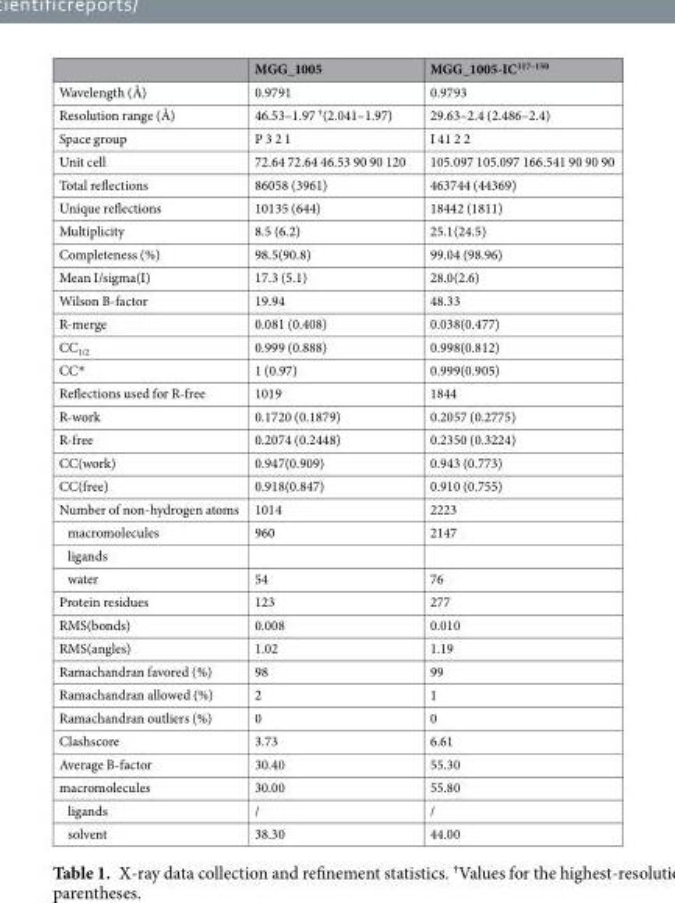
<table><thead><tr><td></td><td>MGG_1005</td><td>MGG_1005-IC<sup>117–150</sup></td></tr></thead><tbody><tr><td>Wavelength (Å)</td><td>0.9791</td><td>0.9793</td></tr><tr><td>Resolution range (Å)</td><td>46.53–1.97 <sup>†</sup>(2.041–1.97)</td><td>29.63–2.4 (2.486–2.4)</td></tr><tr><td>Space group</td><td>P 3 2 1</td><td>I 41 2 2</td></tr><tr><td>Unit cell</td><td>72.64 72.64 46.53 90 90 120</td><td>105.097 105.097 166.541 90 90 90</td></tr><tr><td>Total reflections</td><td>86058 (3961)</td><td>463744 (44369)</td></tr><tr><td>Unique reflections</td><td>10135 (644)</td><td>18442 (1811)</td></tr><tr><td>Multiplicity</td><td>8.5 (6.2)</td><td>25.1(24.5)</td></tr><tr><td>Completeness (%)</td><td>98.5(90.8)</td><td>99.04 (98.96)</td></tr><tr><td>Mean I/sigma(I)</td><td>17.3 (5.1)</td><td>28.0(2.6)</td></tr><tr><td>Wilson B-factor</td><td>19.94</td><td>48.33</td></tr><tr><td>R-merge</td><td>0.081 (0.408)</td><td>0.038(0.477)</td></tr><tr><td>CC<sub>1/2</sub></td><td>0.999 (0.888)</td><td>0.998(0.812)</td></tr><tr><td>CC*</td><td>1 (0.97)</td><td>0.999(0.905)</td></tr><tr><td>Reflections used for R-free</td><td>1019</td><td>1844</td></tr><tr><td>R-work</td><td>0.1720 (0.1879)</td><td>0.2057 (0.2775)</td></tr><tr><td>R-free</td><td>0.2074 (0.2448)</td><td>0.2350 (0.3224)</td></tr><tr><td>CC(work)</td><td>0.947(0.909)</td><td>0.943 (0.773)</td></tr><tr><td>CC(free)</td><td>0.918(0.847)</td><td>0.910 (0.755)</td></tr><tr><td>Number of non-hydrogen atoms</td><td>1014</td><td>2223</td></tr><tr><td>macromolecules</td><td>960</td><td>2147</td></tr><tr><td colspan="3">ligands</td></tr><tr><td>water</td><td>54</td><td>76</td></tr><tr><td>Protein residues</td><td>123</td><td>277</td></tr><tr><td>RMS(bonds)</td><td>0.008</td><td>0.010</td></tr><tr><td>RMS(angles)</td><td>1.02</td><td>1.19</td></tr><tr><td>Ramachandran favored (%)</td><td>98</td><td>99</td></tr><tr><td>Ramachandran allowed (%)</td><td>2</td><td>1</td></tr><tr><td>Ramachandran outliers (%)</td><td>0</td><td>0</td></tr><tr><td>Clashscore</td><td>3.73</td><td>6.61</td></tr><tr><td>Average B-factor</td><td>30.40</td><td>55.30</td></tr><tr><td>macromolecules</td><td>30.00</td><td>55.80</td></tr><tr><td>ligands</td><td>/</td><td>/</td></tr><tr><td>solvent</td><td>38.30</td><td>44.00</td></tr></tbody></table>